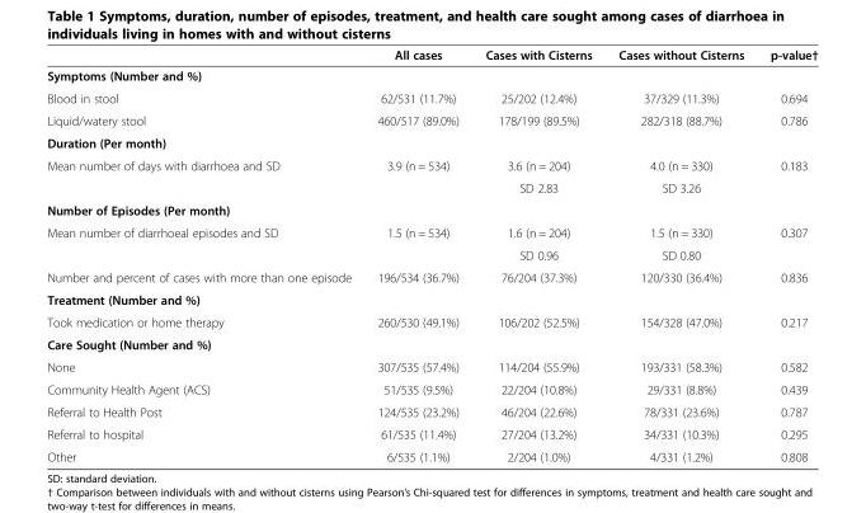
<table><thead><tr><td></td><td>All cases</td><td>Cases with Cisterns</td><td>Cases without Cisterns</td><td>p-value†</td></tr></thead><tbody><tr><td colspan="5">Symptoms (Number and %)</td></tr><tr><td>Blood in stool</td><td>62/531 (11.7%)</td><td>25/202 (12.4%)</td><td>37/329 (11.3%)</td><td>0.694</td></tr><tr><td>Liquid/watery stool</td><td>460/517 (89.0%)</td><td>178/199 (89.5%)</td><td>282/318 (88.7%)</td><td>0.786</td></tr><tr><td colspan="5">Duration (Per month)</td></tr><tr><td rowspan="2">Mean number of days with diarrhoea and SD</td><td rowspan="2">3.9 (n = 534)</td><td>3.6 (n = 204)</td><td>4.0 (n = 330)</td><td rowspan="2">0.183</td></tr><tr><td>SD 2.83</td><td>SD 3.26</td></tr><tr><td colspan="5">Number of Episodes (Per month)</td></tr><tr><td rowspan="2">Mean number of diarrhoeal episodes and SD</td><td rowspan="2">1.5 (n = 534)</td><td>1.6 (n = 204)</td><td>1.5 (n = 330)</td><td rowspan="2">0.307</td></tr><tr><td>SD 0.96</td><td>SD 0.80</td></tr><tr><td>Number and percent of cases with more than one episode</td><td>196/534 (36.7%)</td><td>76/204 (37.3%)</td><td>120/330 (36.4%)</td><td>0.836</td></tr><tr><td colspan="5">Treatment (Number and %)</td></tr><tr><td>Took medication or home therapy</td><td>260/530 (49.1%)</td><td>106/202 (52.5%)</td><td>154/328 (47.0%)</td><td>0.217</td></tr><tr><td colspan="5">Care Sought (Number and %)</td></tr><tr><td>None</td><td>307/535 (57.4%)</td><td>114/204 (55.9%)</td><td>193/331 (58.3%)</td><td>0.582</td></tr><tr><td>Community Health Agent (ACS)</td><td>51/535 (9.5%)</td><td>22/204 (10.8%)</td><td>29/331 (8.8%)</td><td>0.439</td></tr><tr><td>Referral to Health Post</td><td>124/535 (23.2%)</td><td>46/204 (22.6%)</td><td>78/331 (23.6%)</td><td>0.787</td></tr><tr><td>Referral to hospital</td><td>61/535 (11.4%)</td><td>27/204 (13.2%)</td><td>34/331 (10.3%)</td><td>0.295</td></tr><tr><td>Other</td><td>6/535 (1.1%)</td><td>2/204 (1.0%)</td><td>4/331 (1.2%)</td><td>0.808</td></tr></tbody></table>